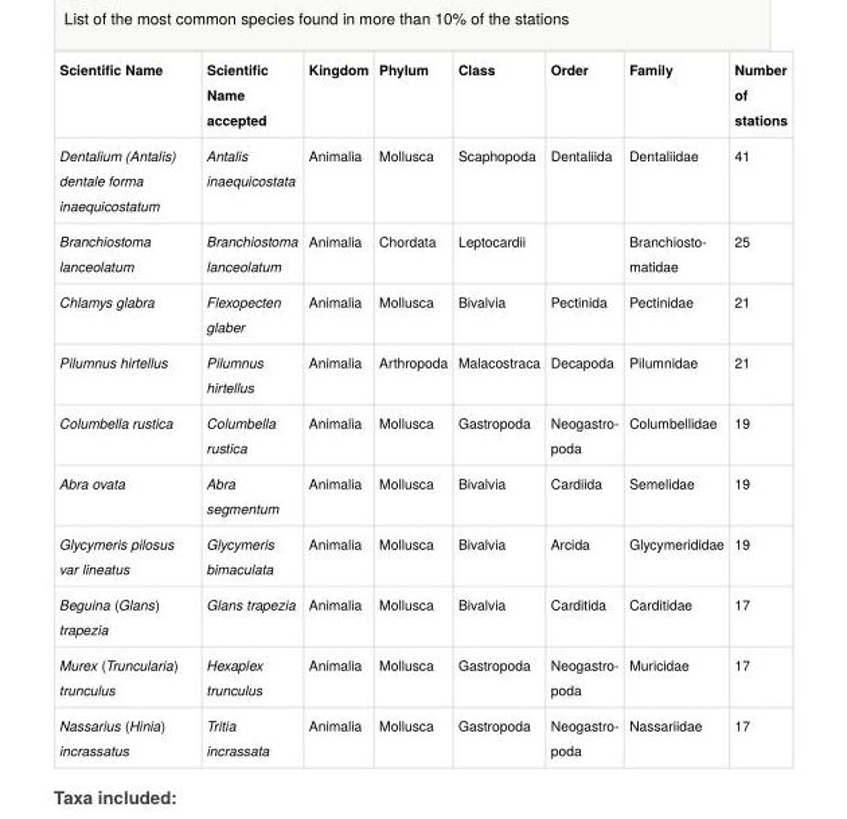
<table><tbody><tr><td>Scientific Name</td><td>Scientific Name accepted</td><td>Kingdom</td><td>Phylum</td><td>Class</td><td>Order</td><td>Family</td><td>Number of stations</td></tr><tr><td>Dentalium (Antalis) dentale forma inaequicostatum</td><td>Antalis inaequicostata</td><td>Animalia</td><td>Mollusca</td><td>Scaphopoda</td><td>Dentaliida</td><td>Dentaliidae</td><td>41</td></tr><tr><td>Branchiostoma lanceolatum</td><td>Branchiostoma lanceolatum</td><td>Animalia</td><td>Chordata</td><td>Leptocardii</td><td></td><td>Branchiosto- matidae</td><td>25</td></tr><tr><td>Chlamys glabra</td><td>Flexopecten glaber</td><td>Animalia</td><td>Mollusca</td><td>Bivalvia</td><td>Pectinida</td><td>Pectinidae</td><td>21</td></tr><tr><td>Pilumnus hirtellus</td><td>Pilumnus hirtellus</td><td>Animalia</td><td>Arthropoda</td><td>Malacostraca</td><td>Decapoda</td><td>Pilumnidae</td><td>21</td></tr><tr><td>Columbella rustica</td><td>Columbella rustica</td><td>Animalia</td><td>Mollusca</td><td>Gastropoda</td><td>Neogastro- poda</td><td>Columbellidae</td><td>19</td></tr><tr><td>Abra ovata</td><td>Abra segmentum</td><td>Animalia</td><td>Mollusca</td><td>Bivalvia</td><td>Cardiida</td><td>Semelidae</td><td>19</td></tr><tr><td>Glycymeris pilosus var lineatus</td><td>Glycymeris bimaculata</td><td>Animalia</td><td>Mollusca</td><td>Bivalvia</td><td>Arcida</td><td>Glycymerididae</td><td>19</td></tr><tr><td>Beguina (Glans) trapezia</td><td>Glans trapezia</td><td>Animalia</td><td>Mollusca</td><td>Bivalvia</td><td>Carditida</td><td>Carditidae</td><td>17</td></tr><tr><td>Murex (Truncularia) trunculus</td><td>Hexaplex trunculus</td><td>Animalia</td><td>Mollusca</td><td>Gastropoda</td><td>Neogastro- poda</td><td>Muricidae</td><td>17</td></tr><tr><td>Nassarius (Hinia) incrassatus</td><td>Tritia incrassata</td><td>Animalia</td><td>Mollusca</td><td>Gastropoda</td><td>Neogastro- poda</td><td>Nassariidae</td><td>17</td></tr></tbody></table>